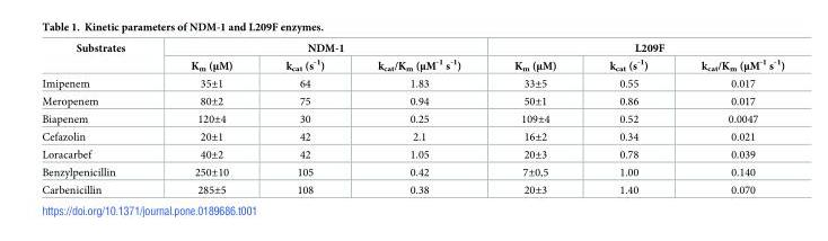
<table><thead><tr><td rowspan="2">Substrates</td><td colspan="3">NDM-1</td><td colspan="3">L209F</td></tr><tr><td>K<sub>m</sub> (μM)</td><td>k<sub>cat</sub> (s<sup>-1</sup>)</td><td>k<sub>cat</sub>/K<sub>m</sub> (μM<sup>-1</sup> s<sup>-1</sup>)</td><td>K<sub>m</sub> (μM)</td><td>k<sub>cat</sub> (s<sup>-1</sup>)</td><td>k<sub>cat</sub>/K<sub>m</sub> (μM<sup>-1</sup> s<sup>-1</sup>)</td></tr></thead><tbody><tr><td>Imipenem</td><td>35±1</td><td>64</td><td>1.83</td><td>33±5</td><td>0.55</td><td>0.017</td></tr><tr><td>Meropenem</td><td>80±2</td><td>75</td><td>0.94</td><td>50±1</td><td>0.86</td><td>0.017</td></tr><tr><td>Biapenem</td><td>120±4</td><td>30</td><td>0.25</td><td>109±4</td><td>0.52</td><td>0.0047</td></tr><tr><td>Cefazolin</td><td>20±1</td><td>42</td><td>2.1</td><td>16±2</td><td>0.34</td><td>0.021</td></tr><tr><td>Loracarbef</td><td>40±2</td><td>42</td><td>1.05</td><td>20±3</td><td>0.78</td><td>0.039</td></tr><tr><td>Benzylpenicillin</td><td>250±10</td><td>105</td><td>0.42</td><td>7±0,5</td><td>1.00</td><td>0.140</td></tr><tr><td>Carbenicillin</td><td>285±5</td><td>108</td><td>0.38</td><td>20±3</td><td>1.40</td><td>0.070</td></tr></tbody></table>